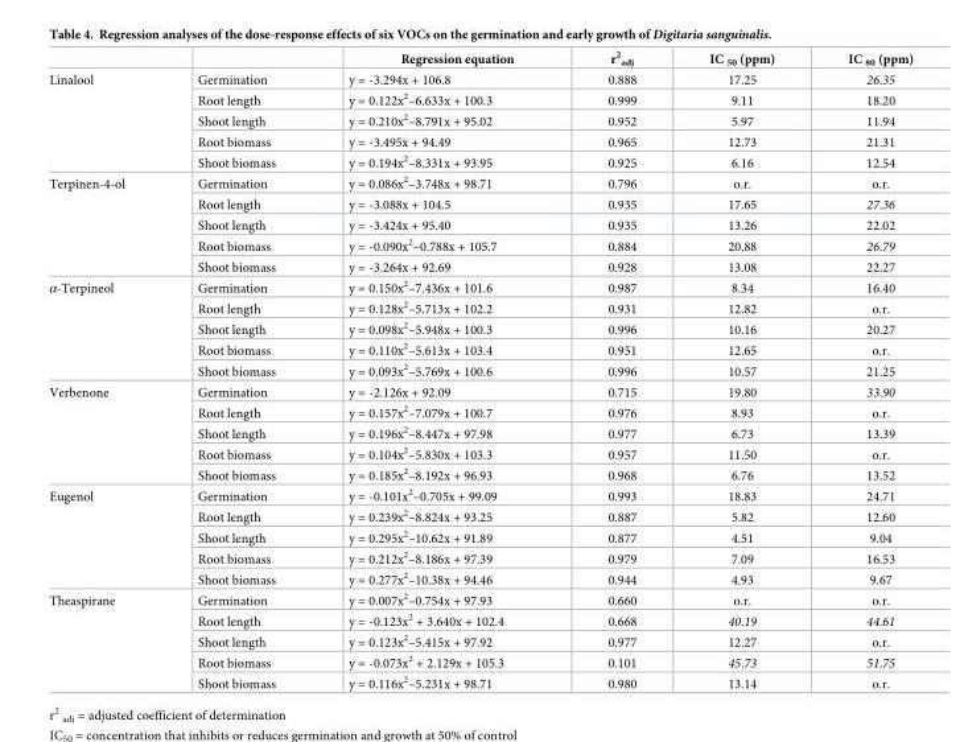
<table><thead><tr><td></td><td></td><td>Regression equation</td><td>r<sup>2</sup> <sub>adj</sub></td><td>IC <sub>50</sub> (ppm)</td><td>IC <sub>80</sub> (ppm)</td></tr></thead><tbody><tr><td rowspan="5">Linalool</td><td>Germination</td><td>y = -3.294x + 106.8</td><td>0.888</td><td>17.25</td><td>26.35</td></tr><tr><td>Root length</td><td>y = 0.122x<sup>2</sup>–6.633x + 100.3</td><td>0.999</td><td>9.11</td><td>18.20</td></tr><tr><td>Shoot length</td><td>y = 0.210x<sup>2</sup>–8.791x + 95.02</td><td>0.952</td><td>5.97</td><td>11.94</td></tr><tr><td>Root biomass</td><td>y = -3.495x + 94.49</td><td>0.965</td><td>12.73</td><td>21.31</td></tr><tr><td>Shoot biomass</td><td>y = 0.194x<sup>2</sup>–8.331x + 93.95</td><td>0.925</td><td>6.16</td><td>12.54</td></tr><tr><td rowspan="5">Terpinen-4-ol</td><td>Germination</td><td>y = 0.086x<sup>2</sup>–3.748x + 98.71</td><td>0.796</td><td>o.r.</td><td>o.r.</td></tr><tr><td>Root length</td><td>y = -3.088x + 104.5</td><td>0.935</td><td>17.65</td><td>27.36</td></tr><tr><td>Shoot length</td><td>y = -3.424x + 95.40</td><td>0.935</td><td>13.26</td><td>22.02</td></tr><tr><td>Root biomass</td><td>y = -0.090x<sup>2</sup>–0.788x + 105.7</td><td>0.884</td><td>20.88</td><td>26.79</td></tr><tr><td>Shoot biomass</td><td>y = -3.264x + 92.69</td><td>0.928</td><td>13.08</td><td>22.27</td></tr><tr><td rowspan="5">α-Terpineol</td><td>Germination</td><td>y = 0.150x<sup>2</sup>–7.436x + 101.6</td><td>0.987</td><td>8.34</td><td>16.40</td></tr><tr><td>Root length</td><td>y = 0.128x<sup>2</sup>–5.713x + 102.2</td><td>0.931</td><td>12.82</td><td>o.r.</td></tr><tr><td>Shoot length</td><td>y = 0.098x<sup>2</sup>–5.948x + 100.3</td><td>0.996</td><td>10.16</td><td>20.27</td></tr><tr><td>Root biomass</td><td>y = 0.110x<sup>2</sup>–5.613x + 103.4</td><td>0.951</td><td>12.65</td><td>o.r.</td></tr><tr><td>Shoot biomass</td><td>y = 0.093x<sup>2</sup>–5.769x + 100.6</td><td>0.996</td><td>10.57</td><td>21.25</td></tr><tr><td rowspan="5">Verbenone</td><td>Germination</td><td>y = -2.126x + 92.09</td><td>0.715</td><td>19.80</td><td>33.90</td></tr><tr><td>Root length</td><td>y = 0.157x<sup>2</sup>–7.079x + 100.7</td><td>0.976</td><td>8.93</td><td>o.r.</td></tr><tr><td>Shoot length</td><td>y = 0.196x<sup>2</sup>–8.447x + 97.98</td><td>0.977</td><td>6.73</td><td>13.39</td></tr><tr><td>Root biomass</td><td>y = 0.104x<sup>2</sup>–5.830x + 103.3</td><td>0.957</td><td>11.50</td><td>o.r.</td></tr><tr><td>Shoot biomass</td><td>y = 0.185x<sup>2</sup>–8.192x + 96.93</td><td>0.968</td><td>6.76</td><td>13.52</td></tr><tr><td rowspan="5">Eugenol</td><td>Germination</td><td>y = -0.101x<sup>2</sup>–0.705x + 99.09</td><td>0.993</td><td>18.83</td><td>24.71</td></tr><tr><td>Root length</td><td>y = 0.239x<sup>2</sup>–8.824x + 93.25</td><td>0.887</td><td>5.82</td><td>12.60</td></tr><tr><td>Shoot length</td><td>y = 0.295x<sup>2</sup>–10.62x + 91.89</td><td>0.877</td><td>4.51</td><td>9.04</td></tr><tr><td>Root biomass</td><td>y = 0.212x<sup>2</sup>–8.186x + 97.39</td><td>0.979</td><td>7.09</td><td>16.53</td></tr><tr><td>Shoot biomass</td><td>y = 0.277x<sup>2</sup>–10.38x + 94.46</td><td>0.944</td><td>4.93</td><td>9.67</td></tr><tr><td rowspan="5">Theaspirane</td><td>Germination</td><td>y = 0.007x<sup>2</sup>–0.754x + 97.93</td><td>0.660</td><td>o.r.</td><td>o.r.</td></tr><tr><td>Root length</td><td>y = -0.123x<sup>2</sup> + 3.640x + 102.4</td><td>0.668</td><td>40.19</td><td>44.61</td></tr><tr><td>Shoot length</td><td>y = 0.123x<sup>2</sup>–5.415x + 97.92</td><td>0.977</td><td>12.27</td><td>o.r.</td></tr><tr><td>Root biomass</td><td>y = -0.073x<sup>2</sup> + 2.129x + 105.3</td><td>0.101</td><td>45.73</td><td>51.75</td></tr><tr><td>Shoot biomass</td><td>y = 0.116x<sup>2</sup>–5.231x + 98.71</td><td>0.980</td><td>13.14</td><td>o.r.</td></tr></tbody></table>